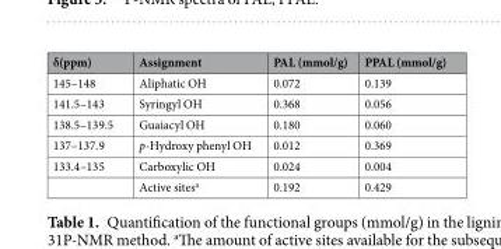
<table><thead><tr><td>δ(ppm)</td><td>Assignment</td><td>PAL (mmol/g)</td><td>PPAL (mmol/g)</td></tr></thead><tbody><tr><td>145–148</td><td>Aliphatic OH</td><td>0.072</td><td>0.139</td></tr><tr><td>141.5–143</td><td>Syringyl OH</td><td>0.368</td><td>0.056</td></tr><tr><td>138.5–139.5</td><td>Guaiacyl OH</td><td>0.180</td><td>0.060</td></tr><tr><td>137–137.9</td><td>p-Hydroxy phenyl OH</td><td>0.012</td><td>0.369</td></tr><tr><td rowspan="2">133.4–135</td><td>Carboxylic OH</td><td>0.024</td><td>0.004</td></tr><tr><td>Active sites<sup>a</sup></td><td>0.192</td><td>0.429</td></tr></tbody></table>